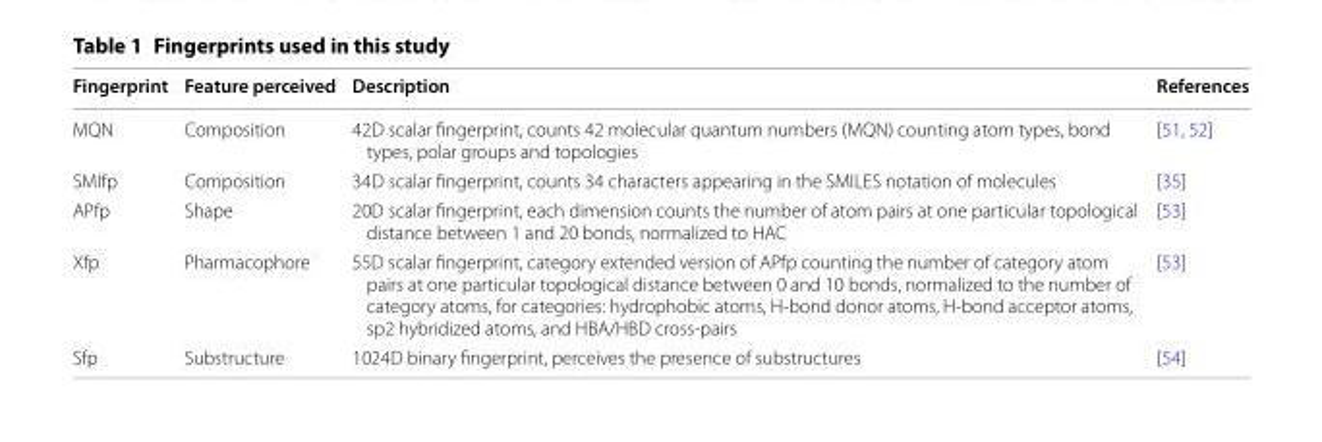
<table><thead><tr><td>Fingerprint</td><td>Feature perceived</td><td>Description</td><td>References</td></tr></thead><tbody><tr><td>MQN</td><td>Composition</td><td>42D scalar fingerprint, counts 42 molecular quantum numbers (MQN) counting atom types, bond types, polar groups and topologies</td><td>[51, 52]</td></tr><tr><td>SMIfp</td><td>Composition</td><td>34D scalar fingerprint, counts 34 characters appearing in the SMILES notation of molecules</td><td>[35]</td></tr><tr><td>APfp</td><td>Shape</td><td>20D scalar fingerprint, each dimension counts the number of atom pairs at one particular topological distance between 1 and 20 bonds, normalized to HAC</td><td>[53]</td></tr><tr><td>Xfp</td><td>Pharmacophore</td><td>55D scalar fingerprint, category extended version of APfp counting the number of category atom pairs at one particular topological distance between 0 and 10 bonds, normalized to the number of category atoms, for categories: hydrophobic atoms, H‑bond donor atoms, H‑bond acceptor atoms, sp2 hybridized atoms, and HBA/HBD cross‑pairs</td><td>[53]</td></tr><tr><td>Sfp</td><td>Substructure</td><td>1024D binary fingerprint, perceives the presence of substructures</td><td>[54]</td></tr></tbody></table>